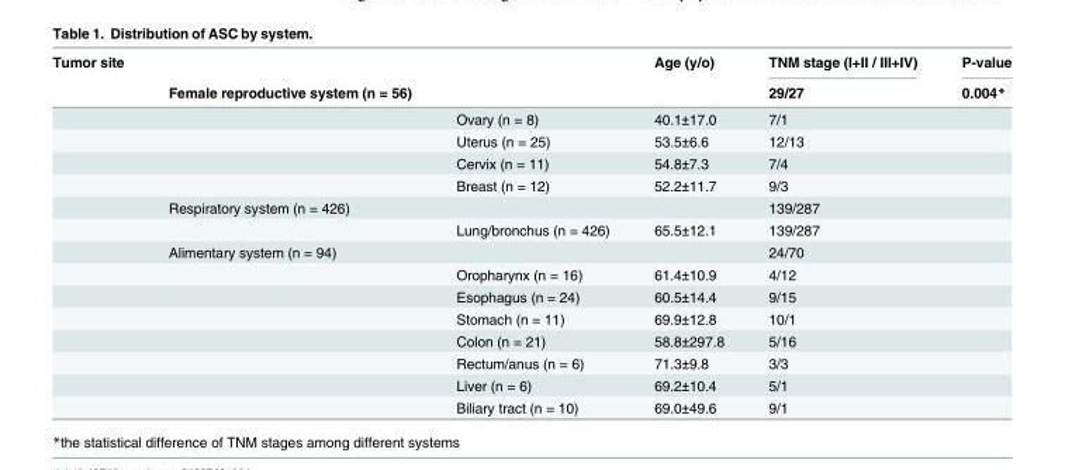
<table><thead><tr><td rowspan="2">Tumor site</td><td rowspan="2">Female reproductive system (n = 56)</td><td rowspan="2"></td><td rowspan="2">Age (y/o)</td><td rowspan="2">TNM stage (I+II / III+IV) 29/27</td><td rowspan="2">P-value 0.004*</td></tr><tr></tr></thead><tbody><tr><td></td><td></td><td>Ovary (n = 8)</td><td>40.1±17.0</td><td>7/1</td><td></td></tr><tr><td></td><td></td><td>Uterus (n = 25)</td><td>53.5±6.6</td><td>12/13</td><td></td></tr><tr><td></td><td></td><td>Cervix (n = 11)</td><td>54.8±7.3</td><td>7/4</td><td></td></tr><tr><td></td><td></td><td>Breast (n = 12)</td><td>52.2±11.7</td><td>9/3</td><td></td></tr><tr><td></td><td>Respiratory system (n = 426)</td><td></td><td></td><td>139/287</td><td></td></tr><tr><td></td><td></td><td>Lung/bronchus (n = 426)</td><td>65.5±12.1</td><td>139/287</td><td></td></tr><tr><td></td><td>Alimentary system (n = 94)</td><td></td><td></td><td>24/70</td><td></td></tr><tr><td></td><td></td><td>Oropharynx (n = 16)</td><td>61.4±10.9</td><td>4/12</td><td></td></tr><tr><td></td><td></td><td>Esophagus (n = 24)</td><td>60.5±14.4</td><td>9/15</td><td></td></tr><tr><td></td><td></td><td>Stomach (n = 11)</td><td>69.9±12.8</td><td>10/1</td><td></td></tr><tr><td></td><td></td><td>Colon (n = 21)</td><td>58.8±297.8</td><td>5/16</td><td></td></tr><tr><td></td><td></td><td>Rectum/anus (n = 6)</td><td>71.3±9.8</td><td>3/3</td><td></td></tr><tr><td></td><td></td><td>Liver (n = 6)</td><td>69.2±10.4</td><td>5/1</td><td></td></tr><tr><td></td><td></td><td>Biliary tract (n = 10)</td><td>69.0±49.6</td><td>9/1</td><td></td></tr></tbody></table>